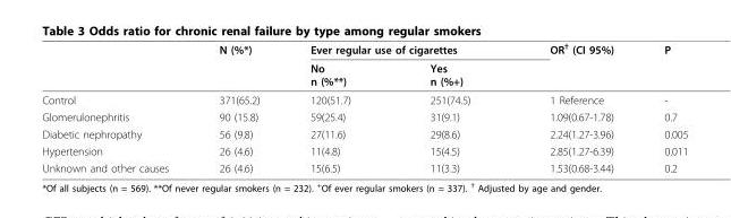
<table><thead><tr><td rowspan="2"></td><td rowspan="2">N (%*)</td><td colspan="2">Ever regular use of cigarettes</td><td rowspan="2">OR<sup>†</sup> (CI 95%)</td><td rowspan="2">P</td></tr><tr><td>No n (%**)</td><td>Yes n (%+)</td></tr></thead><tbody><tr><td>Control</td><td>371(65.2)</td><td>120(51.7)</td><td>251(74.5)</td><td>1 Reference</td><td>-</td></tr><tr><td>Glomerulonephritis</td><td>90 (15.8)</td><td>59(25.4)</td><td>31(9.1)</td><td>1.09(0.67-1.78)</td><td>0.7</td></tr><tr><td>Diabetic nephropathy</td><td>56 (9.8)</td><td>27(11.6)</td><td>29(8.6)</td><td>2.24(1.27-3.96)</td><td>0.005</td></tr><tr><td>Hypertension</td><td>26 (4.6)</td><td>11(4.8)</td><td>15(4.5)</td><td>2.85(1.27-6.39)</td><td>0.011</td></tr><tr><td>Unknown and other causes</td><td>26 (4.6)</td><td>15(6.5)</td><td>11(3.3)</td><td>1.53(0.68-3.44)</td><td>0.2</td></tr></tbody></table>